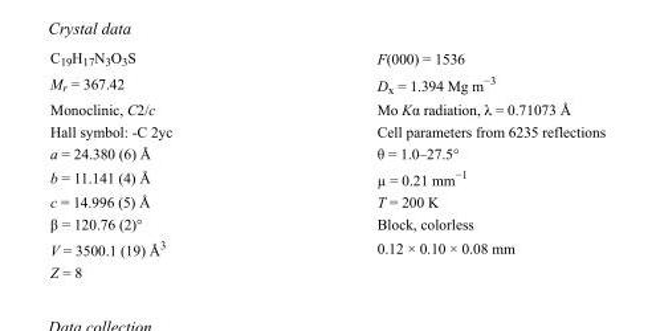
<table><tbody><tr><td>C<sub>19</sub>H<sub>17</sub>N<sub>3</sub>O<sub>3</sub>S</td><td>F(000) = 1536</td></tr><tr><td>M<sub>r</sub> = 367.42</td><td>D<sub>x</sub> = 1.394 Mg m<sup>−3</sup></td></tr><tr><td>Monoclinic, C2/c</td><td>Mo Kα radiation, λ = 0.71073 Å</td></tr><tr><td>Hall symbol: -C 2yc</td><td>Cell parameters from 6235 reflections</td></tr><tr><td>a = 24.380 (6) Å</td><td>θ = 1.0–27.5°</td></tr><tr><td>b = 11.141 (4) Å</td><td>µ = 0.21 mm<sup>−1</sup></td></tr><tr><td>c = 14.996 (5) Å</td><td>T = 200 K</td></tr><tr><td>β = 120.76 (2)°</td><td>Block, colorless</td></tr><tr><td>V = 3500.1 (19) Å<sup>3</sup></td><td>0.12 × 0.10 × 0.08 mm</td></tr><tr><td>Z = 8</td><td></td></tr></tbody></table>